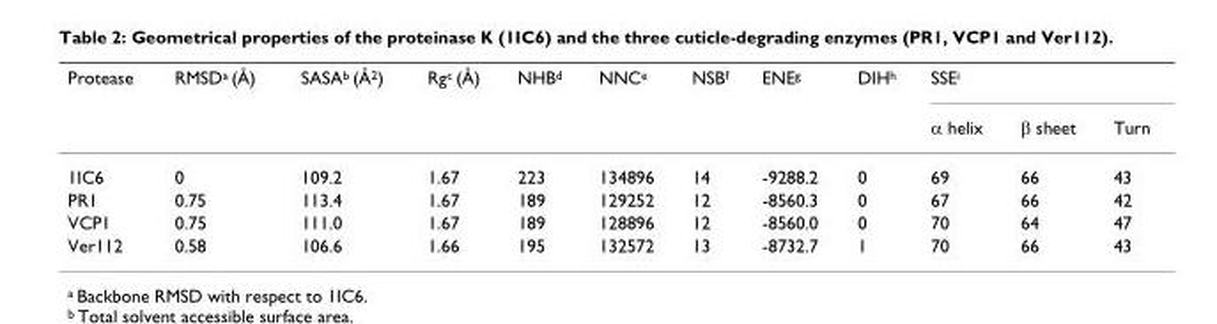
<table><thead><tr><td rowspan="2">Protease</td><td rowspan="2">RMSDa (Å)</td><td rowspan="2">SASAb (Å2)</td><td rowspan="2">Rgc (Å)</td><td rowspan="2">NHBd</td><td rowspan="2">NNCe</td><td rowspan="2">NSBf</td><td rowspan="2">ENEg</td><td rowspan="2">DIHh</td><td colspan="3">SSEi</td></tr><tr><td>α helix</td><td>β sheet</td><td>Turn</td></tr></thead><tbody><tr><td>1IC6</td><td>0</td><td>109.2</td><td>1.67</td><td>223</td><td>134896</td><td>14</td><td>-9288.2</td><td>0</td><td>69</td><td>66</td><td>43</td></tr><tr><td>PR1</td><td>0.75</td><td>113.4</td><td>1.67</td><td>189</td><td>129252</td><td>12</td><td>-8560.3</td><td>0</td><td>67</td><td>66</td><td>42</td></tr><tr><td>VCP1</td><td>0.75</td><td>111.0</td><td>1.67</td><td>189</td><td>128896</td><td>12</td><td>-8560.0</td><td>0</td><td>70</td><td>64</td><td>47</td></tr><tr><td>Ver112</td><td>0.58</td><td>106.6</td><td>1.66</td><td>195</td><td>132572</td><td>13</td><td>-8732.7</td><td>1</td><td>70</td><td>66</td><td>43</td></tr></tbody></table>